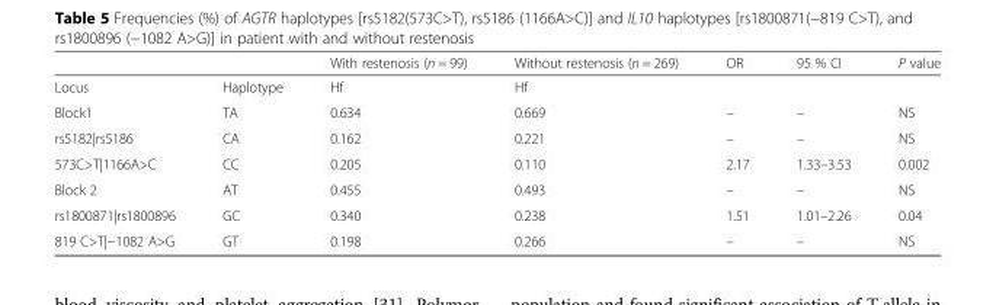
<table><thead><tr><td></td><td></td><td>With restenosis (n = 99)</td><td>Without restenosis (n = 269)</td><td>OR</td><td>95 % CI</td><td>P value</td></tr></thead><tbody><tr><td>Locus</td><td>Haplotype</td><td>Hf</td><td>Hf</td><td></td><td></td><td></td></tr><tr><td>Block1</td><td>TA</td><td>0.634</td><td>0.669</td><td>–</td><td>–</td><td>NS</td></tr><tr><td>rs5182|rs5186</td><td>CA</td><td>0.162</td><td>0.221</td><td>–</td><td>–</td><td>NS</td></tr><tr><td>573C&gt;T|1166A&gt;C</td><td>CC</td><td>0.205</td><td>0.110</td><td>2.17</td><td>1.33–3.53</td><td>0.002</td></tr><tr><td>Block 2</td><td>AT</td><td>0.455</td><td>0.493</td><td>–</td><td>–</td><td>NS</td></tr><tr><td>rs1800871|rs1800896</td><td>GC</td><td>0.340</td><td>0.238</td><td>1.51</td><td>1.01–2.26</td><td>0.04</td></tr><tr><td>819 C&gt;T|−1082 A&gt;G</td><td>GT</td><td>0.198</td><td>0.266</td><td>–</td><td>–</td><td>NS</td></tr></tbody></table>